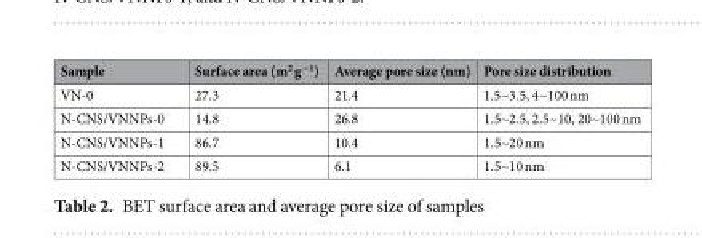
<table><thead><tr><td>Sample</td><td>Surface area (m<sup>2</sup> g<sup>−1</sup>)</td><td>Average pore size (nm)</td><td>Pore size distribution</td></tr></thead><tbody><tr><td>VN-0</td><td>27.3</td><td>21.4</td><td>1.5~3.5, 4~100 nm</td></tr><tr><td>N-CNS/VNNPs-0</td><td>14.8</td><td>26.8</td><td>1.5~2.5, 2.5~10, 20~100 nm</td></tr><tr><td>N-CNS/VNNPs-1</td><td>86.7</td><td>10.4</td><td>1.5~20 nm</td></tr><tr><td>N-CNS/VNNPs-2</td><td>89.5</td><td>6.1</td><td>1.5~10 nm</td></tr></tbody></table>